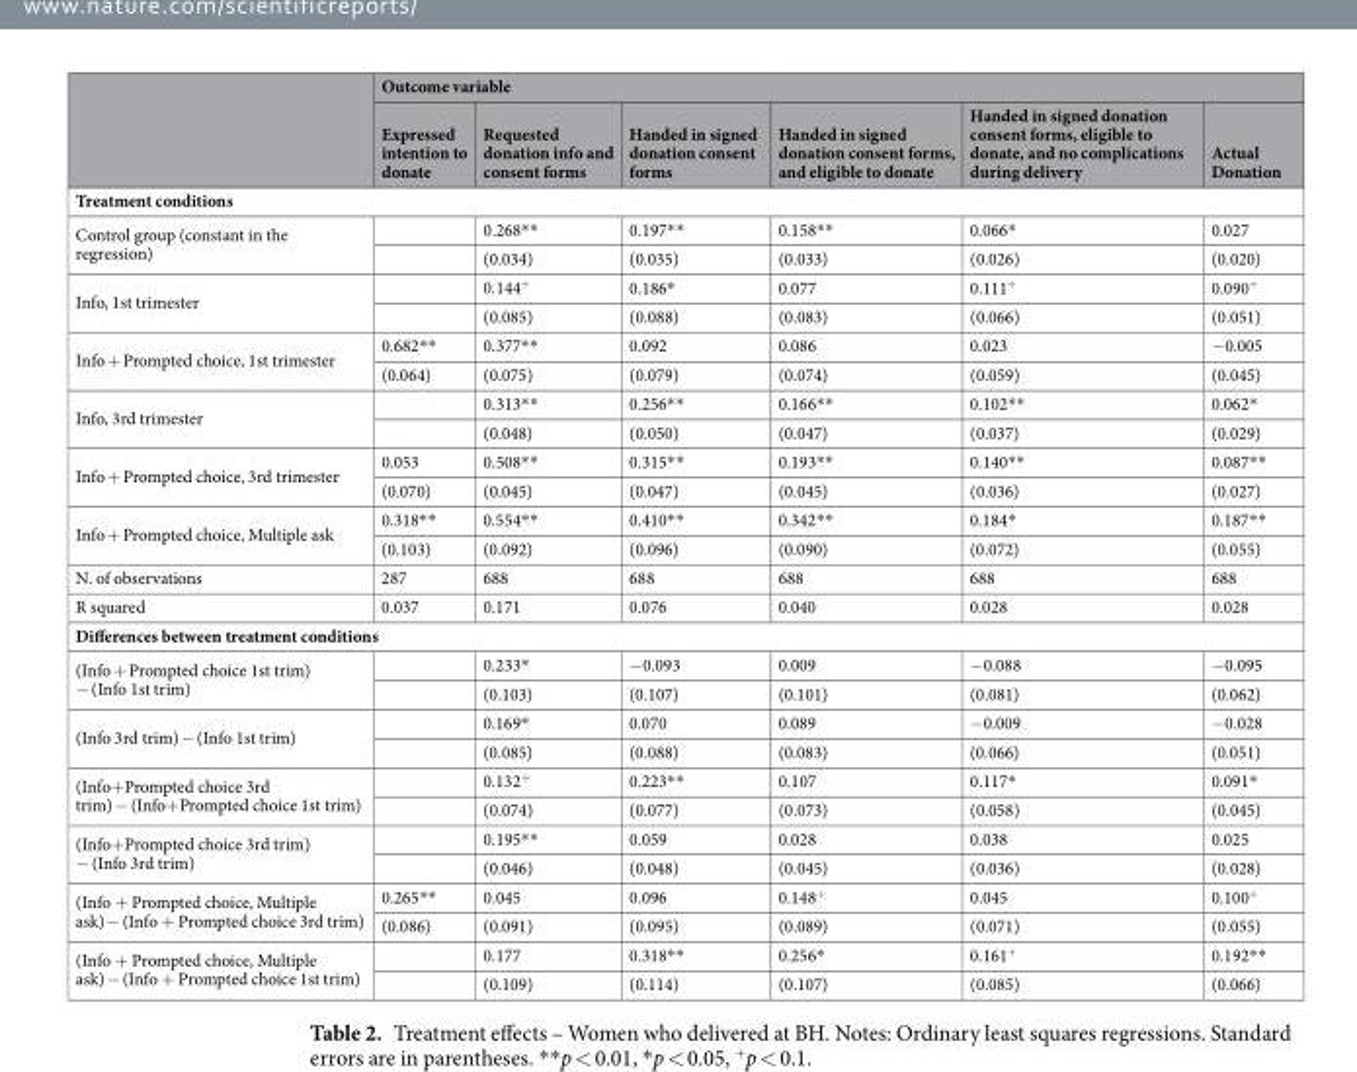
<table><thead><tr><td rowspan="2"></td><td colspan="6">Outcome variable</td></tr><tr><td>Expressed intention to donate</td><td>Requested donation info and consent forms</td><td>Handed in signed donation consent forms</td><td>Handed in signed donation consent forms, and eligible to donate</td><td>Handed in signed donation consent forms, eligible to donate, and no complications during delivery</td><td>Actual Donation</td></tr></thead><tbody><tr><td colspan="7">Treatment conditions</td></tr><tr><td rowspan="2">Control group (constant in the regression)</td><td></td><td>0.268**</td><td>0.197**</td><td>0.158**</td><td>0.066*</td><td>0.027</td></tr><tr><td></td><td>(0.034)</td><td>(0.035)</td><td>(0.033)</td><td>(0.026)</td><td>(0.020)</td></tr><tr><td rowspan="2">Info, 1st trimester</td><td></td><td>0.144<sup>+</sup></td><td>0.186*</td><td>0.077</td><td>0.111<sup>+</sup></td><td>0.090<sup>+</sup></td></tr><tr><td></td><td>(0.085)</td><td>(0.088)</td><td>(0.083)</td><td>(0.066)</td><td>(0.051)</td></tr><tr><td rowspan="2">Info + Prompted choice, 1st trimester</td><td>0.682**</td><td>0.377**</td><td>0.092</td><td>0.086</td><td>0.023</td><td>−0.005</td></tr><tr><td>(0.064)</td><td>(0.075)</td><td>(0.079)</td><td>(0.074)</td><td>(0.059)</td><td>(0.045)</td></tr><tr><td rowspan="2">Info, 3rd trimester</td><td></td><td>0.313**</td><td>0.256**</td><td>0.166**</td><td>0.102**</td><td>0.062*</td></tr><tr><td></td><td>(0.048)</td><td>(0.050)</td><td>(0.047)</td><td>(0.037)</td><td>(0.029)</td></tr><tr><td rowspan="2">Info + Prompted choice, 3rd trimester</td><td>0.053</td><td>0.508**</td><td>0.315**</td><td>0.193**</td><td>0.140**</td><td>0.087**</td></tr><tr><td>(0.070)</td><td>(0.045)</td><td>(0.047)</td><td>(0.045)</td><td>(0.036)</td><td>(0.027)</td></tr><tr><td rowspan="2">Info + Prompted choice, Multiple ask</td><td>0.318**</td><td>0.554**</td><td>0.410**</td><td>0.342**</td><td>0.184*</td><td>0.187**</td></tr><tr><td>(0.103)</td><td>(0.092)</td><td>(0.096)</td><td>(0.090)</td><td>(0.072)</td><td>(0.055)</td></tr><tr><td>N. of observations</td><td>287</td><td>688</td><td>688</td><td>688</td><td>688</td><td>688</td></tr><tr><td>R squared</td><td>0.037</td><td>0.171</td><td>0.076</td><td>0.040</td><td>0.028</td><td>0.028</td></tr><tr><td colspan="7">Differences between treatment conditions</td></tr><tr><td rowspan="2">(Info + Prompted choice 1st trim) − (Info 1st trim)</td><td></td><td>0.233*</td><td>−0.093</td><td>0.009</td><td>−0.088</td><td>−0.095</td></tr><tr><td></td><td>(0.103)</td><td>(0.107)</td><td>(0.101)</td><td>(0.081)</td><td>(0.062)</td></tr><tr><td rowspan="2">(Info 3rd trim) − (Info 1st trim)</td><td></td><td>0.169*</td><td>0.070</td><td>0.089</td><td>−0.009</td><td>−0.028</td></tr><tr><td></td><td>(0.085)</td><td>(0.088)</td><td>(0.083)</td><td>(0.066)</td><td>(0.051)</td></tr><tr><td rowspan="2">(Info+Prompted choice 3rd trim) − (Info+Prompted choice 1st trim)</td><td></td><td>0.132<sup>+</sup></td><td>0.223**</td><td>0.107</td><td>0.117*</td><td>0.091*</td></tr><tr><td></td><td>(0.074)</td><td>(0.077)</td><td>(0.073)</td><td>(0.058)</td><td>(0.045)</td></tr><tr><td rowspan="2">(Info+Prompted choice 3rd trim) − (Info 3rd trim)</td><td></td><td>0.195**</td><td>0.059</td><td>0.028</td><td>0.038</td><td>0.025</td></tr><tr><td></td><td>(0.046)</td><td>(0.048)</td><td>(0.045)</td><td>(0.036)</td><td>(0.028)</td></tr><tr><td rowspan="2">(Info + Prompted choice, Multiple ask) − (Info + Prompted choice 3rd trim)</td><td>0.265**</td><td>0.045</td><td>0.096</td><td>0.148<sup>+</sup></td><td>0.045</td><td>0.100<sup>+</sup></td></tr><tr><td>(0.086)</td><td>(0.091)</td><td>(0.095)</td><td>(0.089)</td><td>(0.071)</td><td>(0.055)</td></tr><tr><td rowspan="2">(Info + Prompted choice, Multiple ask) − (Info + Prompted choice 1st trim)</td><td></td><td>0.177</td><td>0.318**</td><td>0.256*</td><td>0.161<sup>+</sup></td><td>0.192**</td></tr><tr><td></td><td>(0.109)</td><td>(0.114)</td><td>(0.107)</td><td>(0.085)</td><td>(0.066)</td></tr></tbody></table>